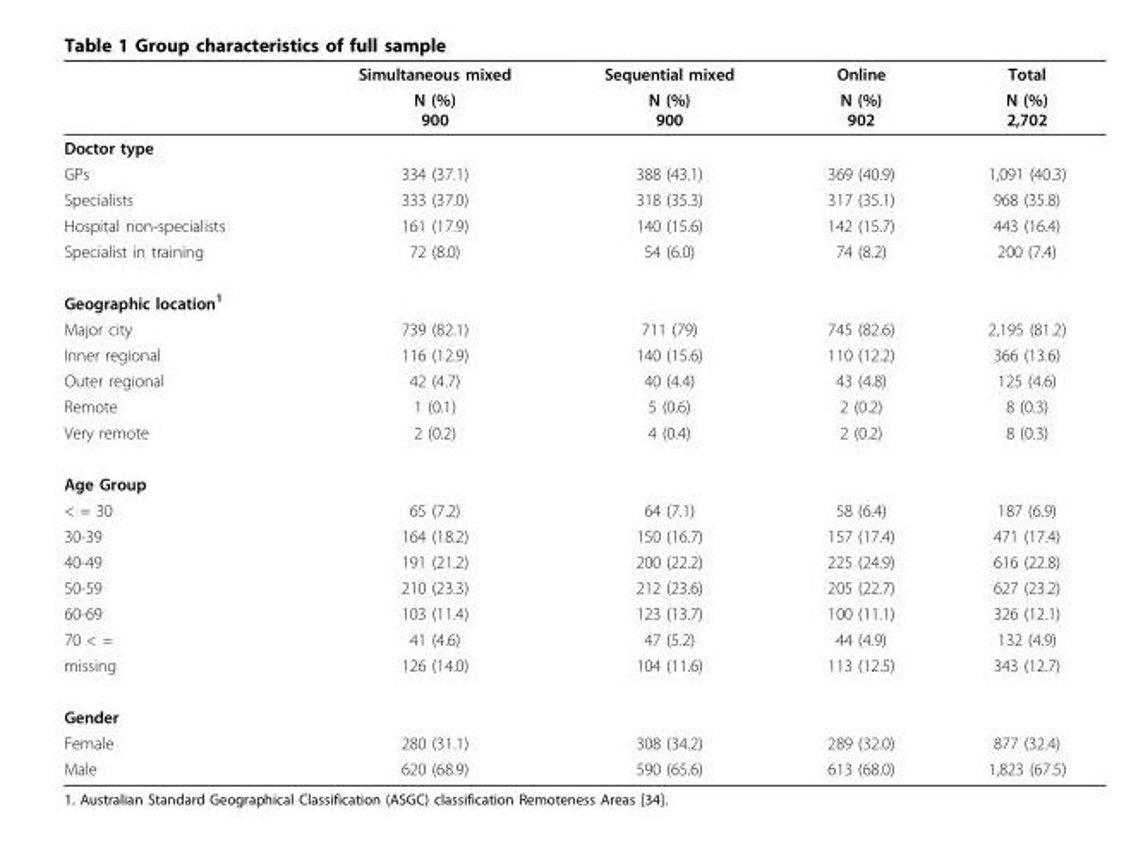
<table><thead><tr><td rowspan="2"></td><td rowspan="2">Simultaneous mixed N (%) 900</td><td rowspan="2">Sequential mixed N (%) 900</td><td rowspan="2">Online N (%) 902</td><td rowspan="2">Total N (%) 2,702</td></tr><tr></tr></thead><tbody><tr><td colspan="5">Doctor type</td></tr><tr><td>GPs</td><td>334 (37.1)</td><td>388 (43.1)</td><td>369 (40.9)</td><td>1,091 (40.3)</td></tr><tr><td>Specialists</td><td>333 (37.0)</td><td>318 (35.3)</td><td>317 (35.1)</td><td>968 (35.8)</td></tr><tr><td>Hospital non-specialists</td><td>161 (17.9)</td><td>140 (15.6)</td><td>142 (15.7)</td><td>443 (16.4)</td></tr><tr><td>Specialist in training</td><td>72 (8.0)</td><td>54 (6.0)</td><td>74 (8.2)</td><td>200 (7.4)</td></tr><tr><td colspan="5">Geographic location<sup>1</sup></td></tr><tr><td>Major city</td><td>739 (82.1)</td><td>711 (79)</td><td>745 (82.6)</td><td>2,195 (81.2)</td></tr><tr><td>Inner regional</td><td>116 (12.9)</td><td>140 (15.6)</td><td>110 (12.2)</td><td>366 (13.6)</td></tr><tr><td>Outer regional</td><td>42 (4.7)</td><td>40 (4.4)</td><td>43 (4.8)</td><td>125 (4.6)</td></tr><tr><td>Remote</td><td>1 (0.1)</td><td>5 (0.6)</td><td>2 (0.2)</td><td>8 (0.3)</td></tr><tr><td>Very remote</td><td>2 (0.2)</td><td>4 (0.4)</td><td>2 (0.2)</td><td>8 (0.3)</td></tr><tr><td colspan="5">Age Group</td></tr><tr><td>&lt; = 30</td><td>65 (7.2)</td><td>64 (7.1)</td><td>58 (6.4)</td><td>187 (6.9)</td></tr><tr><td>30-39</td><td>164 (18.2)</td><td>150 (16.7)</td><td>157 (17.4)</td><td>471 (17.4)</td></tr><tr><td>40-49</td><td>191 (21.2)</td><td>200 (22.2)</td><td>225 (24.9)</td><td>616 (22.8)</td></tr><tr><td>50-59</td><td>210 (23.3)</td><td>212 (23.6)</td><td>205 (22.7)</td><td>627 (23.2)</td></tr><tr><td>60-69</td><td>103 (11.4)</td><td>123 (13.7)</td><td>100 (11.1)</td><td>326 (12.1)</td></tr><tr><td>70 &lt; =</td><td>41 (4.6)</td><td>47 (5.2)</td><td>44 (4.9)</td><td>132 (4.9)</td></tr><tr><td>missing</td><td>126 (14.0)</td><td>104 (11.6)</td><td>113 (12.5)</td><td>343 (12.7)</td></tr><tr><td colspan="5">Gender</td></tr><tr><td>Female</td><td>280 (31.1)</td><td>308 (34.2)</td><td>289 (32.0)</td><td>877 (32.4)</td></tr><tr><td>Male</td><td>620 (68.9)</td><td>590 (65.6)</td><td>613 (68.0)</td><td>1,823 (67.5)</td></tr></tbody></table>